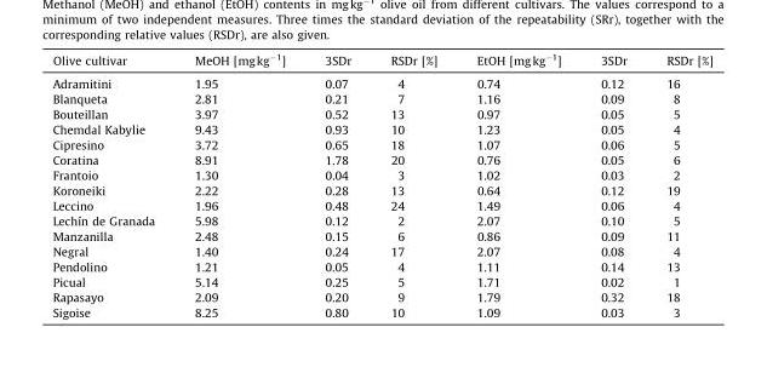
<table><thead><tr><td>Olive cultivar</td><td>MeOH [mgkg<sup>−1</sup>]</td><td>3SDr</td><td>RSDr [%]</td><td>EtOH [mgkg<sup>−1</sup>]</td><td>3SDr</td><td>RSDr [%]</td></tr></thead><tbody><tr><td>Adramitini</td><td>1.95</td><td>0.07</td><td>4</td><td>0.74</td><td>0.12</td><td>16</td></tr><tr><td>Blanqueta</td><td>2.81</td><td>0.21</td><td>7</td><td>1.16</td><td>0.09</td><td>8</td></tr><tr><td>Bouteillan</td><td>3.97</td><td>0.52</td><td>13</td><td>0.97</td><td>0.05</td><td>5</td></tr><tr><td>Chemdal Kabylie</td><td>9.43</td><td>0.93</td><td>10</td><td>1.23</td><td>0.05</td><td>4</td></tr><tr><td>Cipresino</td><td>3.72</td><td>0.65</td><td>18</td><td>1.07</td><td>0.06</td><td>5</td></tr><tr><td>Coratina</td><td>8.91</td><td>1.78</td><td>20</td><td>0.76</td><td>0.05</td><td>6</td></tr><tr><td>Frantoio</td><td>1.30</td><td>0.04</td><td>3</td><td>1.02</td><td>0.03</td><td>2</td></tr><tr><td>Koroneiki</td><td>2.22</td><td>0.28</td><td>13</td><td>0.64</td><td>0.12</td><td>19</td></tr><tr><td>Leccino</td><td>1.96</td><td>0.48</td><td>24</td><td>1.49</td><td>0.06</td><td>4</td></tr><tr><td>Lechı´n de Granada</td><td>5.98</td><td>0.12</td><td>2</td><td>2.07</td><td>0.10</td><td>5</td></tr><tr><td>Manzanilla</td><td>2.48</td><td>0.15</td><td>6</td><td>0.86</td><td>0.09</td><td>11</td></tr><tr><td>Negral</td><td>1.40</td><td>0.24</td><td>17</td><td>2.07</td><td>0.08</td><td>4</td></tr><tr><td>Pendolino</td><td>1.21</td><td>0.05</td><td>4</td><td>1.11</td><td>0.14</td><td>13</td></tr><tr><td>Picual</td><td>5.14</td><td>0.25</td><td>5</td><td>1.71</td><td>0.02</td><td>1</td></tr><tr><td>Rapasayo</td><td>2.09</td><td>0.20</td><td>9</td><td>1.79</td><td>0.32</td><td>18</td></tr><tr><td>Sigoise</td><td>8.25</td><td>0.80</td><td>10</td><td>1.09</td><td>0.03</td><td>3</td></tr></tbody></table>